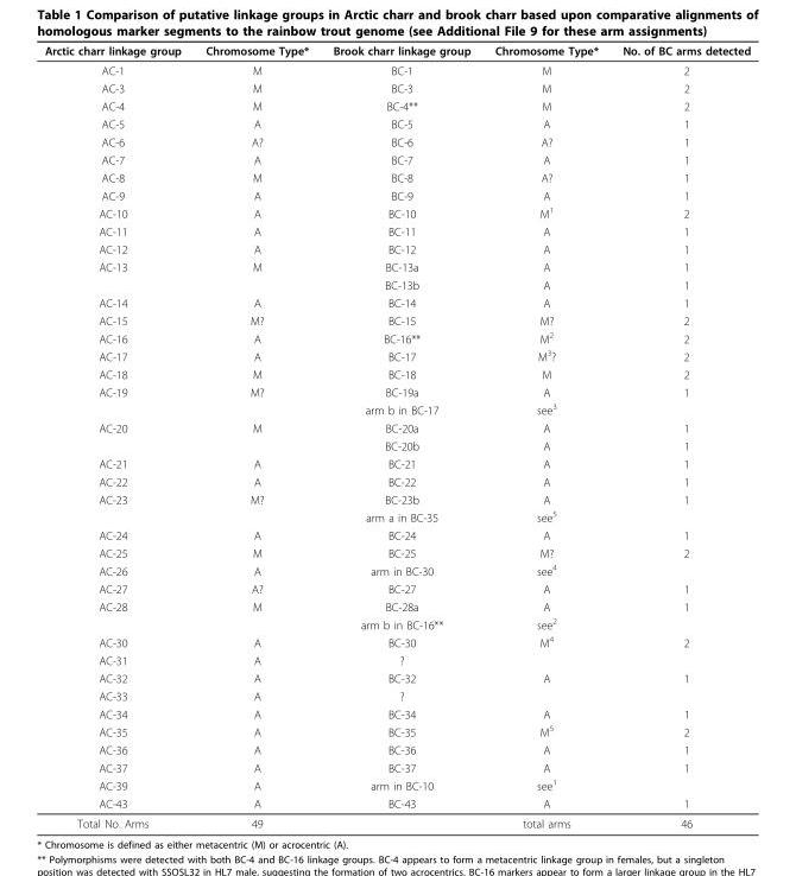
<table><thead><tr><td>Arctic charr linkage group</td><td>Chromosome Type*</td><td>Brook charr linkage group</td><td>Chromosome Type*</td><td>No. of BC arms detected</td></tr></thead><tbody><tr><td>AC-1</td><td>M</td><td>BC-1</td><td>M</td><td>2</td></tr><tr><td>AC-3</td><td>M</td><td>BC-3</td><td>M</td><td>2</td></tr><tr><td>AC-4</td><td>M</td><td>BC-4**</td><td>M</td><td>2</td></tr><tr><td>AC-5</td><td>A</td><td>BC-5</td><td>A</td><td>1</td></tr><tr><td>AC-6</td><td>A?</td><td>BC-6</td><td>A?</td><td>1</td></tr><tr><td>AC-7</td><td>A</td><td>BC-7</td><td>A</td><td>1</td></tr><tr><td>AC-8</td><td>M</td><td>BC-8</td><td>A?</td><td>1</td></tr><tr><td>AC-9</td><td>A</td><td>BC-9</td><td>A</td><td>1</td></tr><tr><td>AC-10</td><td>A</td><td>BC-10</td><td>M<sup>1</sup></td><td>2</td></tr><tr><td>AC-11</td><td>A</td><td>BC-11</td><td>A</td><td>1</td></tr><tr><td>AC-12</td><td>A</td><td>BC-12</td><td>A</td><td>1</td></tr><tr><td rowspan="2">AC-13</td><td>M</td><td>BC-13a</td><td>A</td><td>1</td></tr><tr><td></td><td>BC-13b</td><td>A</td><td>1</td></tr><tr><td>AC-14</td><td>A</td><td>BC-14</td><td>A</td><td>1</td></tr><tr><td>AC-15</td><td>M?</td><td>BC-15</td><td>M?</td><td>2</td></tr><tr><td>AC-16</td><td>A</td><td>BC-16**</td><td>M<sup>2</sup></td><td>2</td></tr><tr><td>AC-17</td><td>A</td><td>BC-17</td><td>M<sup>3</sup>?</td><td>2</td></tr><tr><td>AC-18</td><td>M</td><td>BC-18</td><td>M</td><td>2</td></tr><tr><td rowspan="2">AC-19</td><td>M?</td><td>BC-19a</td><td>A</td><td>1</td></tr><tr><td></td><td>arm b in BC-17</td><td>see<sup>3</sup></td><td></td></tr><tr><td rowspan="2">AC-20</td><td>M</td><td>BC-20a</td><td>A</td><td>1</td></tr><tr><td></td><td>BC-20b</td><td>A</td><td>1</td></tr><tr><td>AC-21</td><td>A</td><td>BC-21</td><td>A</td><td>1</td></tr><tr><td>AC-22</td><td>A</td><td>BC-22</td><td>A</td><td>1</td></tr><tr><td rowspan="2">AC-23</td><td>M?</td><td>BC-23b</td><td>A</td><td>1</td></tr><tr><td></td><td>arm a in BC-35</td><td>see<sup>5</sup></td><td></td></tr><tr><td>AC-24</td><td>A</td><td>BC-24</td><td>A</td><td>1</td></tr><tr><td>AC-25</td><td>M</td><td>BC-25</td><td>M?</td><td>2</td></tr><tr><td>AC-26</td><td>A</td><td>arm in BC-30</td><td>see<sup>4</sup></td><td></td></tr><tr><td>AC-27</td><td>A?</td><td>BC-27</td><td>A</td><td>1</td></tr><tr><td rowspan="2">AC-28</td><td>M</td><td>BC-28a</td><td>A</td><td>1</td></tr><tr><td></td><td>arm b in BC-16**</td><td>see<sup>2</sup></td><td></td></tr><tr><td>AC-30</td><td>A</td><td>BC-30</td><td>M<sup>4</sup></td><td>2</td></tr><tr><td>AC-31</td><td>A</td><td>?</td><td></td><td></td></tr><tr><td>AC-32</td><td>A</td><td>BC-32</td><td>A</td><td>1</td></tr><tr><td>AC-33</td><td>A</td><td>?</td><td></td><td></td></tr><tr><td>AC-34</td><td>A</td><td>BC-34</td><td>A</td><td>1</td></tr><tr><td>AC-35</td><td>A</td><td>BC-35</td><td>M<sup>5</sup></td><td>2</td></tr><tr><td>AC-36</td><td>A</td><td>BC-36</td><td>A</td><td>1</td></tr><tr><td>AC-37</td><td>A</td><td>BC-37</td><td>A</td><td>1</td></tr><tr><td>AC-39</td><td>A</td><td>arm in BC-10</td><td>see<sup>1</sup></td><td></td></tr><tr><td>AC-43</td><td>A</td><td>BC-43</td><td>A</td><td>1</td></tr><tr><td>Total No. Arms</td><td>49</td><td></td><td>total arms</td><td>46</td></tr></tbody></table>